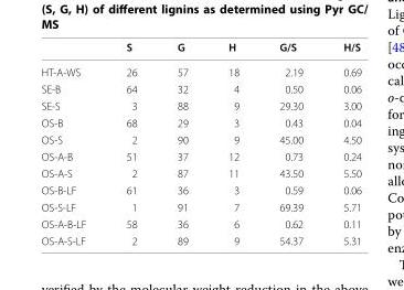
<table><thead><tr><td></td><td>S</td><td>G</td><td>H</td><td>G/S</td><td>H/S</td></tr></thead><tbody><tr><td>HT-A-WS</td><td>26</td><td>57</td><td>18</td><td>2.19</td><td>0.69</td></tr><tr><td>SE-B</td><td>64</td><td>32</td><td>4</td><td>0.50</td><td>0.06</td></tr><tr><td>SE-S</td><td>3</td><td>88</td><td>9</td><td>29.30</td><td>3.00</td></tr><tr><td>OS-B</td><td>68</td><td>29</td><td>3</td><td>0.43</td><td>0.04</td></tr><tr><td>OS-S</td><td>2</td><td>90</td><td>9</td><td>45.00</td><td>4.50</td></tr><tr><td>OS-A-B</td><td>51</td><td>37</td><td>12</td><td>0.73</td><td>0.24</td></tr><tr><td>OS-A-S</td><td>2</td><td>87</td><td>11</td><td>43.50</td><td>5.50</td></tr><tr><td>OS-B-LF</td><td>61</td><td>36</td><td>3</td><td>0.59</td><td>0.06</td></tr><tr><td>OS-S-LF</td><td>1</td><td>91</td><td>7</td><td>69.39</td><td>5.71</td></tr><tr><td>OS-A-B-LF</td><td>58</td><td>36</td><td>6</td><td>0.62</td><td>0.11</td></tr><tr><td>OS-A-S-LF</td><td>2</td><td>89</td><td>9</td><td>54.37</td><td>5.31</td></tr></tbody></table>